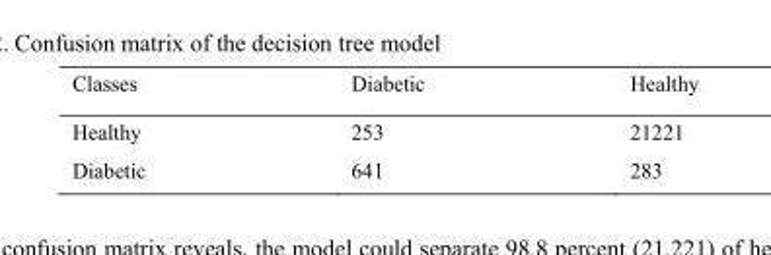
<table><thead><tr><td>Classes</td><td>Diabetic</td><td>Healthy</td></tr></thead><tbody><tr><td>Healthy</td><td>253</td><td>21221</td></tr><tr><td>Diabetic</td><td>641</td><td>283</td></tr></tbody></table>